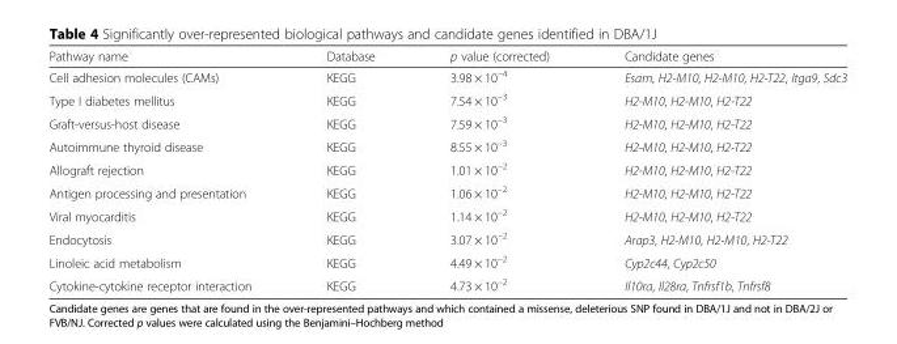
<table><thead><tr><td>Pathway name</td><td>Database</td><td>p value (corrected)</td><td>Candidate genes</td></tr></thead><tbody><tr><td>Cell adhesion molecules (CAMs)</td><td>KEGG</td><td>3.98 × 10<sup>–4</sup></td><td>Esam, H2-M10, H2-M10, H2-T22, Itga9, Sdc3</td></tr><tr><td>Type I diabetes mellitus</td><td>KEGG</td><td>7.54 × 10<sup>–3</sup></td><td>H2-M10, H2-M10, H2-T22</td></tr><tr><td>Graft-versus-host disease</td><td>KEGG</td><td>7.59 × 10<sup>–3</sup></td><td>H2-M10, H2-M10, H2-T22</td></tr><tr><td>Autoimmune thyroid disease</td><td>KEGG</td><td>8.55 × 10<sup>–3</sup></td><td>H2-M10, H2-M10, H2-T22</td></tr><tr><td>Allograft rejection</td><td>KEGG</td><td>1.01 × 10<sup>–2</sup></td><td>H2-M10, H2-M10, H2-T22</td></tr><tr><td>Antigen processing and presentation</td><td>KEGG</td><td>1.06 × 10<sup>–2</sup></td><td>H2-M10, H2-M10, H2-T22</td></tr><tr><td>Viral myocarditis</td><td>KEGG</td><td>1.14 × 10<sup>–2</sup></td><td>H2-M10, H2-M10, H2-T22</td></tr><tr><td>Endocytosis</td><td>KEGG</td><td>3.07 × 10<sup>–2</sup></td><td>Arap3, H2-M10, H2-M10, H2-T22</td></tr><tr><td>Linoleic acid metabolism</td><td>KEGG</td><td>4.49 × 10<sup>–2</sup></td><td>Cyp2c44, Cyp2c50</td></tr><tr><td>Cytokine-cytokine receptor interaction</td><td>KEGG</td><td>4.73 × 10<sup>–2</sup></td><td>Il10ra, Il28ra, Tnfrsf1b, Tnfrsf8</td></tr></tbody></table>